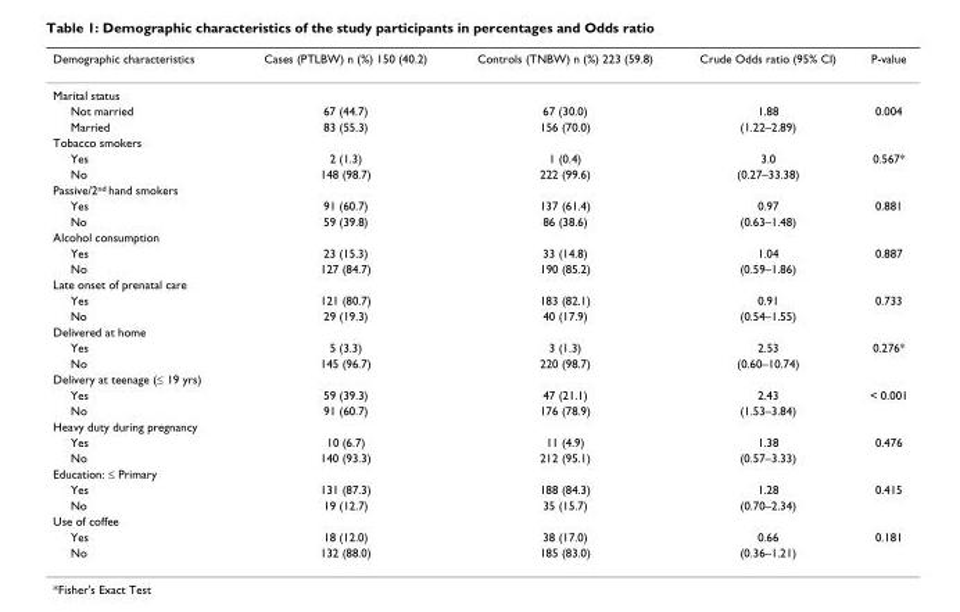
<table><thead><tr><td>Demographic characteristics</td><td>Cases (PTLBW) n (%) 150 (40.2)</td><td>Controls (TNBW) n (%) 223 (59.8)</td><td>Crude Odds ratio (95% CI)</td><td>P-value</td></tr></thead><tbody><tr><td colspan="5">Marital status</td></tr><tr><td>Not married</td><td>67 (44.7)</td><td>67 (30.0)</td><td>1.88</td><td>0.004</td></tr><tr><td>Married</td><td>83 (55.3)</td><td>156 (70.0)</td><td>(1.22–2.89)</td><td></td></tr><tr><td colspan="5">Tobacco smokers</td></tr><tr><td>Yes</td><td>2 (1.3)</td><td>1 (0.4)</td><td>3.0</td><td>0.567*</td></tr><tr><td>No</td><td>148 (98.7)</td><td>222 (99.6)</td><td>(0.27–33.38)</td><td></td></tr><tr><td colspan="5">Passive/2<sup>nd</sup> hand smokers</td></tr><tr><td>Yes</td><td>91 (60.7)</td><td>137 (61.4)</td><td>0.97</td><td>0.881</td></tr><tr><td>No</td><td>59 (39.8)</td><td>86 (38.6)</td><td>(0.63–1.48)</td><td></td></tr><tr><td colspan="5">Alcohol consumption</td></tr><tr><td>Yes</td><td>23 (15.3)</td><td>33 (14.8)</td><td>1.04</td><td>0.887</td></tr><tr><td>No</td><td>127 (84.7)</td><td>190 (85.2)</td><td>(0.59–1.86)</td><td></td></tr><tr><td colspan="5">Late onset of prenatal care</td></tr><tr><td>Yes</td><td>121 (80.7)</td><td>183 (82.1)</td><td>0.91</td><td>0.733</td></tr><tr><td>No</td><td>29 (19.3)</td><td>40 (17.9)</td><td>(0.54–1.55)</td><td></td></tr><tr><td colspan="5">Delivered at home</td></tr><tr><td>Yes</td><td>5 (3.3)</td><td>3 (1.3)</td><td>2.53</td><td>0.276*</td></tr><tr><td>No</td><td>145 (96.7)</td><td>220 (98.7)</td><td>(0.60–10.74)</td><td></td></tr><tr><td colspan="5">Delivery at teenage (≤ 19 yrs)</td></tr><tr><td>Yes</td><td>59 (39.3)</td><td>47 (21.1)</td><td>2.43</td><td>&lt; 0.001</td></tr><tr><td>No</td><td>91 (60.7)</td><td>176 (78.9)</td><td>(1.53–3.84)</td><td></td></tr><tr><td colspan="5">Heavy duty during pregnancy</td></tr><tr><td>Yes</td><td>10 (6.7)</td><td>11 (4.9)</td><td>1.38</td><td>0.476</td></tr><tr><td>No</td><td>140 (93.3)</td><td>212 (95.1)</td><td>(0.57–3.33)</td><td></td></tr><tr><td colspan="5">Education: ≤ Primary</td></tr><tr><td>Yes</td><td>131 (87.3)</td><td>188 (84.3)</td><td>1.28</td><td>0.415</td></tr><tr><td>No</td><td>19 (12.7)</td><td>35 (15.7)</td><td>(0.70–2.34)</td><td></td></tr><tr><td colspan="5">Use of coffee</td></tr><tr><td>Yes</td><td>18 (12.0)</td><td>38 (17.0)</td><td>0.66</td><td>0.181</td></tr><tr><td>No</td><td>132 (88.0)</td><td>185 (83.0)</td><td>(0.36–1.21)</td><td></td></tr></tbody></table>